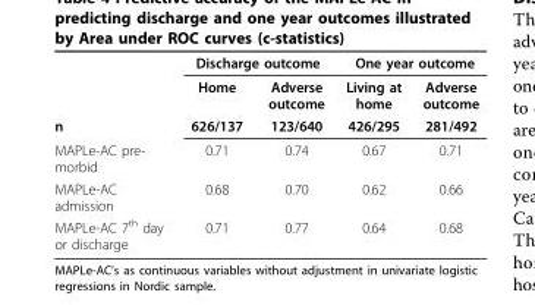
<table><thead><tr><td rowspan="2"></td><td colspan="2">Discharge outcome</td><td colspan="2">One year outcome</td></tr><tr><td>Home</td><td>Adverse outcome</td><td>Living at home</td><td>Adverse outcome</td></tr></thead><tbody><tr><td>n</td><td>626/137</td><td>123/640</td><td>426/295</td><td>281/492</td></tr><tr><td>MAPLe-AC pre- morbid</td><td>0.71</td><td>0.74</td><td>0.67</td><td>0.71</td></tr><tr><td>MAPLe-AC admission</td><td>0.68</td><td>0.70</td><td>0.62</td><td>0.66</td></tr><tr><td>MAPLe-AC 7<sup>th</sup> day or discharge</td><td>0.71</td><td>0.77</td><td>0.64</td><td>0.68</td></tr></tbody></table>